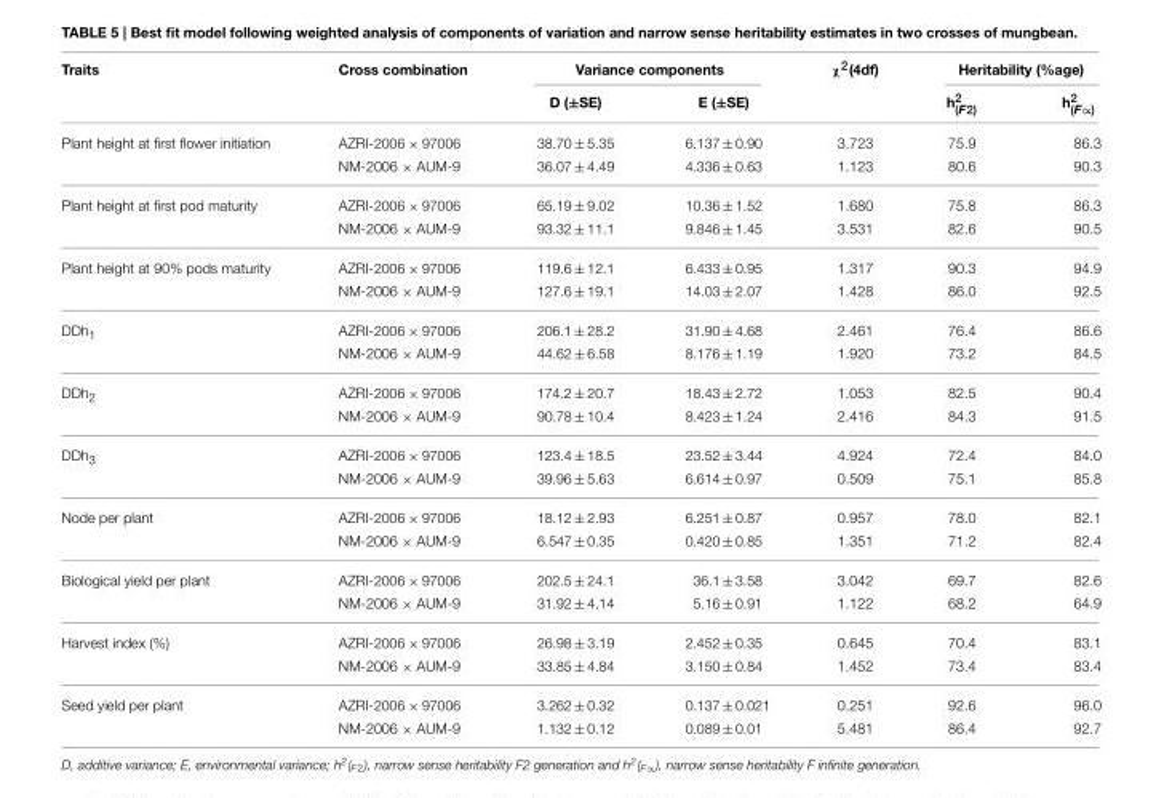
<table><thead><tr><td rowspan="2">Traits</td><td rowspan="2">Cross combination</td><td colspan="2">Variance components</td><td rowspan="2">χ<sup>2</sup>(4df)</td><td colspan="2">Heritability (%age)</td></tr><tr><td>D (±SE)</td><td>E (±SE)</td><td>h<sup>2</sup> <sub>(F2)</sub></td><td>h<sup>2</sup> <sub>(F∝)</sub></td></tr></thead><tbody><tr><td rowspan="2">Plant height at first flower initiation</td><td>AZRI-2006 × 97006</td><td>38.70 ± 5.35</td><td>6.137 ± 0.90</td><td>3.723</td><td>75.9</td><td>86.3</td></tr><tr><td>NM-2006 × AUM-9</td><td>36.07 ± 4.49</td><td>4.336 ± 0.63</td><td>1.123</td><td>80.6</td><td>90.3</td></tr><tr><td rowspan="2">Plant height at first pod maturity</td><td>AZRI-2006 × 97006</td><td>65.19 ± 9.02</td><td>10.36 ± 1.52</td><td>1.680</td><td>75.8</td><td>86.3</td></tr><tr><td>NM-2006 × AUM-9</td><td>93.32 ± 11.1</td><td>9.846 ± 1.45</td><td>3.531</td><td>82.6</td><td>90.5</td></tr><tr><td rowspan="2">Plant height at 90% pods maturity</td><td>AZRI-2006 × 97006</td><td>119.6 ± 12.1</td><td>6.433 ± 0.95</td><td>1.317</td><td>90.3</td><td>94.9</td></tr><tr><td>NM-2006 × AUM-9</td><td>127.6 ± 19.1</td><td>14.03 ± 2.07</td><td>1.428</td><td>86.0</td><td>92.5</td></tr><tr><td rowspan="2">DDh<sub>1</sub></td><td>AZRI-2006 × 97006</td><td>206.1 ± 28.2</td><td>31.90 ± 4.68</td><td>2.461</td><td>76.4</td><td>86.6</td></tr><tr><td>NM-2006 × AUM-9</td><td>44.62 ± 6.58</td><td>8.176 ± 1.19</td><td>1.920</td><td>73.2</td><td>84.5</td></tr><tr><td rowspan="2">DDh<sub>2</sub></td><td>AZRI-2006 × 97006</td><td>174.2 ± 20.7</td><td>18.43 ± 2.72</td><td>1.053</td><td>82.5</td><td>90.4</td></tr><tr><td>NM-2006 × AUM-9</td><td>90.78 ± 10.4</td><td>8.423 ± 1.24</td><td>2.416</td><td>84.3</td><td>91.5</td></tr><tr><td rowspan="2">DDh<sub>3</sub></td><td>AZRI-2006 × 97006</td><td>123.4 ± 18.5</td><td>23.52 ± 3.44</td><td>4.924</td><td>72.4</td><td>84.0</td></tr><tr><td>NM-2006 × AUM-9</td><td>39.96 ± 5.63</td><td>6.614 ± 0.97</td><td>0.509</td><td>75.1</td><td>85.8</td></tr><tr><td rowspan="2">Node per plant</td><td>AZRI-2006 × 97006</td><td>18.12 ± 2.93</td><td>6.251 ± 0.87</td><td>0.957</td><td>78.0</td><td>82.1</td></tr><tr><td>NM-2006 × AUM-9</td><td>6.547 ± 0.35</td><td>0.420 ± 0.85</td><td>1.351</td><td>71.2</td><td>82.4</td></tr><tr><td rowspan="2">Biological yield per plant</td><td>AZRI-2006 × 97006</td><td>202.5 ± 24.1</td><td>36.1 ± 3.58</td><td>3.042</td><td>69.7</td><td>82.6</td></tr><tr><td>NM-2006 × AUM-9</td><td>31.92 ± 4.14</td><td>5.16 ± 0.91</td><td>1.122</td><td>68.2</td><td>64.9</td></tr><tr><td rowspan="2">Harvest index (%)</td><td>AZRI-2006 × 97006</td><td>26.98 ± 3.19</td><td>2.452 ± 0.35</td><td>0.645</td><td>70.4</td><td>83.1</td></tr><tr><td>NM-2006 × AUM-9</td><td>33.85 ± 4.84</td><td>3.150 ± 0.84</td><td>1.452</td><td>73.4</td><td>83.4</td></tr><tr><td rowspan="2">Seed yield per plant</td><td>AZRI-2006 × 97006</td><td>3.262 ± 0.32</td><td>0.137 ± 0.021</td><td>0.251</td><td>92.6</td><td>96.0</td></tr><tr><td>NM-2006 × AUM-9</td><td>1.132 ± 0.12</td><td>0.089 ± 0.01</td><td>5.481</td><td>86.4</td><td>92.7</td></tr></tbody></table>